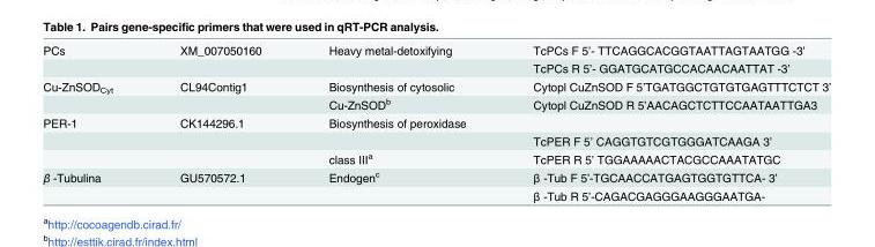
<table><tbody><tr><td rowspan="2">PCs</td><td>XM_007050160</td><td>Heavy metal-detoxifying</td><td>TcPCs F 5’- TTCAGGCACGGTAATTAGTAATGG -3’</td></tr><tr><td></td><td></td><td>TcPCs R 5’- GGATGCATGCCACAACAATTAT -3’</td></tr><tr><td rowspan="2">Cu-ZnSOD<sub>Cyt</sub></td><td>CL94Contig1</td><td>Biosynthesis of cytosolic</td><td>Cytopl CuZnSOD F 5’TGATGGCTGTGTGAGTTTCTCT 3’</td></tr><tr><td></td><td>Cu-ZnSOD<sup>b</sup></td><td>Cytopl CuZnSOD R 5’AACAGCTCTTCCAATAATTGA3</td></tr><tr><td rowspan="3">PER-1</td><td>CK144296.1</td><td>Biosynthesis of peroxidase</td><td></td></tr><tr><td></td><td></td><td>TcPER F 5’ CAGGTGTCGTGGGATCAAGA 3’</td></tr><tr><td></td><td>class III<sup>a</sup></td><td>TcPER R 5’ TGGAAAAACTACGCCAAATATGC</td></tr><tr><td rowspan="2">β -Tubulina</td><td>GU570572.1</td><td>Endogen<sup>c</sup></td><td>β -Tub F 5’-TGCAACCATGAGTGGTGTTCA- 3’</td></tr><tr><td></td><td></td><td>β -Tub R 5’-CAGACGAGGGAAGGGAATGA-</td></tr></tbody></table>